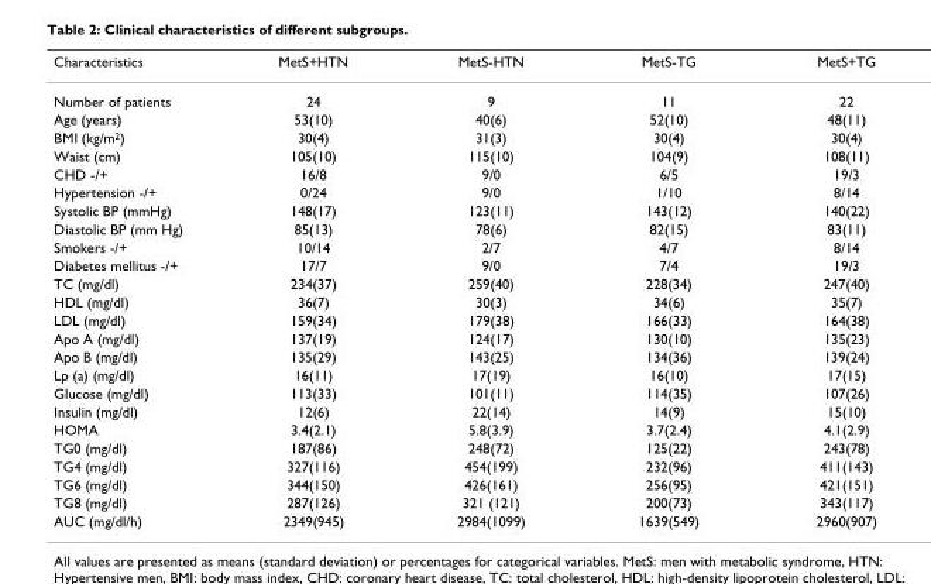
<table><thead><tr><td>Characteristics</td><td>MetS+HTN</td><td>MetS-HTN</td><td>MetS-TG</td><td>MetS+TG</td></tr></thead><tbody><tr><td>Number of patients</td><td>24</td><td>9</td><td>11</td><td>22</td></tr><tr><td>Age (years)</td><td>53(10)</td><td>40(6)</td><td>52(10)</td><td>48(11)</td></tr><tr><td>BMI (kg/m<sup>2</sup>)</td><td>30(4)</td><td>31(3)</td><td>30(4)</td><td>30(4)</td></tr><tr><td>Waist (cm)</td><td>105(10)</td><td>115(10)</td><td>104(9)</td><td>108(11)</td></tr><tr><td>CHD -/+</td><td>16/8</td><td>9/0</td><td>6/5</td><td>19/3</td></tr><tr><td>Hypertension -/+</td><td>0/24</td><td>9/0</td><td>1/10</td><td>8/14</td></tr><tr><td>Systolic BP (mmHg)</td><td>148(17)</td><td>123(11)</td><td>143(12)</td><td>140(22)</td></tr><tr><td>Diastolic BP (mm Hg)</td><td>85(13)</td><td>78(6)</td><td>82(15)</td><td>83(11)</td></tr><tr><td>Smokers -/+</td><td>10/14</td><td>2/7</td><td>4/7</td><td>8/14</td></tr><tr><td>Diabetes mellitus -/+</td><td>17/7</td><td>9/0</td><td>7/4</td><td>19/3</td></tr><tr><td>TC (mg/dl)</td><td>234(37)</td><td>259(40)</td><td>228(34)</td><td>247(40)</td></tr><tr><td>HDL (mg/dl)</td><td>36(7)</td><td>30(3)</td><td>34(6)</td><td>35(7)</td></tr><tr><td>LDL (mg/dl)</td><td>159(34)</td><td>179(38)</td><td>166(33)</td><td>164(38)</td></tr><tr><td>Apo A (mg/dl)</td><td>137(19)</td><td>124(17)</td><td>130(10)</td><td>135(23)</td></tr><tr><td>Apo B (mg/dl)</td><td>135(29)</td><td>143(25)</td><td>134(36)</td><td>139(24)</td></tr><tr><td>Lp (a) (mg/dl)</td><td>16(11)</td><td>17(19)</td><td>16(10)</td><td>17(15)</td></tr><tr><td>Glucose (mg/dl)</td><td>113(33)</td><td>101(11)</td><td>114(35)</td><td>107(26)</td></tr><tr><td>Insulin (mg/dl)</td><td>12(6)</td><td>22(14)</td><td>14(9)</td><td>15(10)</td></tr><tr><td>HOMA</td><td>3.4(2.1)</td><td>5.8(3.9)</td><td>3.7(2.4)</td><td>4.1(2.9)</td></tr><tr><td>TG0 (mg/dl)</td><td>187(86)</td><td>248(72)</td><td>125(22)</td><td>243(78)</td></tr><tr><td>TG4 (mg/dl)</td><td>327(116)</td><td>454(199)</td><td>232(96)</td><td>411(143)</td></tr><tr><td>TG6 (mg/dl)</td><td>344(150)</td><td>426(161)</td><td>256(95)</td><td>421(151)</td></tr><tr><td>TG8 (mg/dl)</td><td>287(126)</td><td>321 (121)</td><td>200(73)</td><td>343(117)</td></tr><tr><td>AUC (mg/dl/h)</td><td>2349(945)</td><td>2984(1099)</td><td>1639(549)</td><td>2960(907)</td></tr></tbody></table>